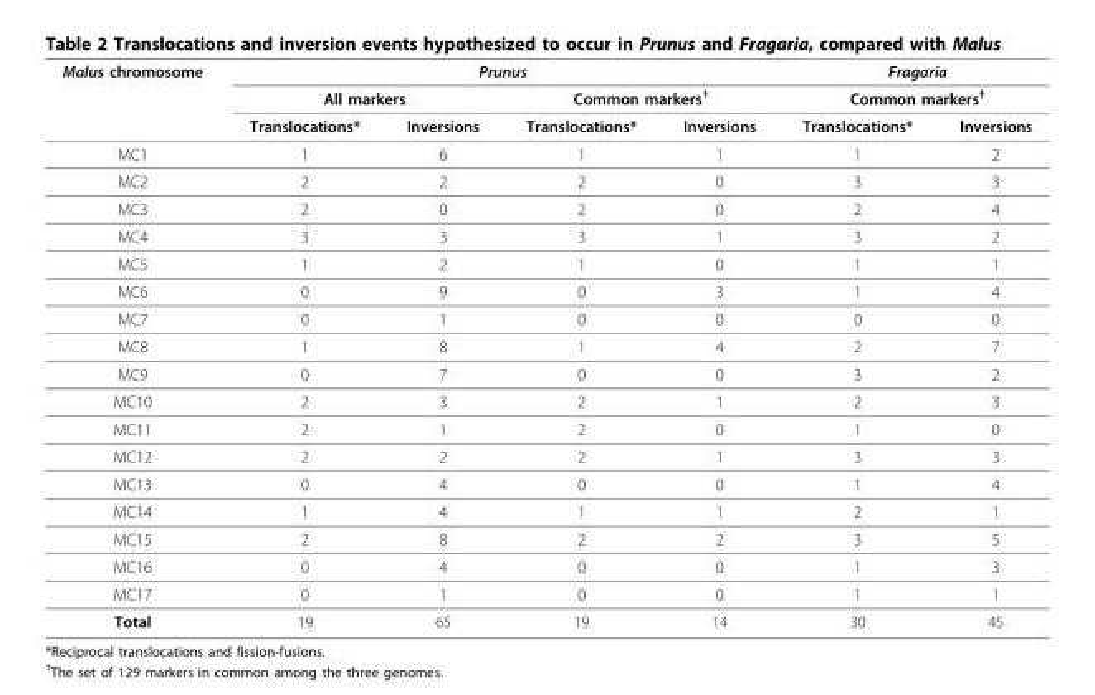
<table><thead><tr><td rowspan="3">Malus chromosome</td><td colspan="4">Prunus</td><td rowspan="2" colspan="2">Fragaria Common markers<sup>†</sup></td></tr><tr><td colspan="2">All markers</td><td colspan="2">Common markers<sup>†</sup></td></tr><tr><td>Translocations*</td><td>Inversions</td><td>Translocations*</td><td>Inversions</td><td>Translocations*</td><td>Inversions</td></tr></thead><tbody><tr><td>MC1</td><td>1</td><td>6</td><td>1</td><td>1</td><td>1</td><td>2</td></tr><tr><td>MC2</td><td>2</td><td>2</td><td>2</td><td>0</td><td>3</td><td>3</td></tr><tr><td>MC3</td><td>2</td><td>0</td><td>2</td><td>0</td><td>2</td><td>4</td></tr><tr><td>MC4</td><td>3</td><td>3</td><td>3</td><td>1</td><td>3</td><td>2</td></tr><tr><td>MC5</td><td>1</td><td>2</td><td>1</td><td>0</td><td>1</td><td>1</td></tr><tr><td>MC6</td><td>0</td><td>9</td><td>0</td><td>3</td><td>1</td><td>4</td></tr><tr><td>MC7</td><td>0</td><td>1</td><td>0</td><td>0</td><td>0</td><td>0</td></tr><tr><td>MC8</td><td>1</td><td>8</td><td>1</td><td>4</td><td>2</td><td>7</td></tr><tr><td>MC9</td><td>0</td><td>7</td><td>0</td><td>0</td><td>3</td><td>2</td></tr><tr><td>MC10</td><td>2</td><td>3</td><td>2</td><td>1</td><td>2</td><td>3</td></tr><tr><td>MC11</td><td>2</td><td>1</td><td>2</td><td>0</td><td>1</td><td>0</td></tr><tr><td>MC12</td><td>2</td><td>2</td><td>2</td><td>1</td><td>3</td><td>3</td></tr><tr><td>MC13</td><td>0</td><td>4</td><td>0</td><td>0</td><td>1</td><td>4</td></tr><tr><td>MC14</td><td>1</td><td>4</td><td>1</td><td>1</td><td>2</td><td>1</td></tr><tr><td>MC15</td><td>2</td><td>8</td><td>2</td><td>2</td><td>3</td><td>5</td></tr><tr><td>MC16</td><td>0</td><td>4</td><td>0</td><td>0</td><td>1</td><td>3</td></tr><tr><td>MC17</td><td>0</td><td>1</td><td>0</td><td>0</td><td>1</td><td>1</td></tr><tr><td>Total</td><td>19</td><td>65</td><td>19</td><td>14</td><td>30</td><td>45</td></tr></tbody></table>